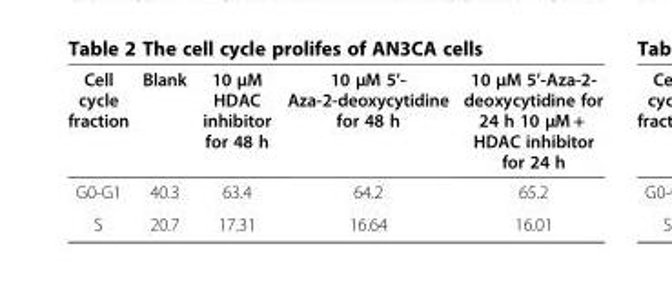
<table><thead><tr><td>Cell cycle fraction</td><td>Blank</td><td>10 μM HDAC inhibitor for 48 h</td><td>10 μM 5’- Aza-2-deoxycytidine for 48 h</td><td>10 μM 5’-Aza-2- deoxycytidine for 24 h 10 μM + HDAC inhibitor for 24 h</td></tr></thead><tbody><tr><td>G0-G1</td><td>40.3</td><td>63.4</td><td>64.2</td><td>65.2</td></tr><tr><td>S</td><td>20.7</td><td>17.31</td><td>16.64</td><td>16.01</td></tr></tbody></table>